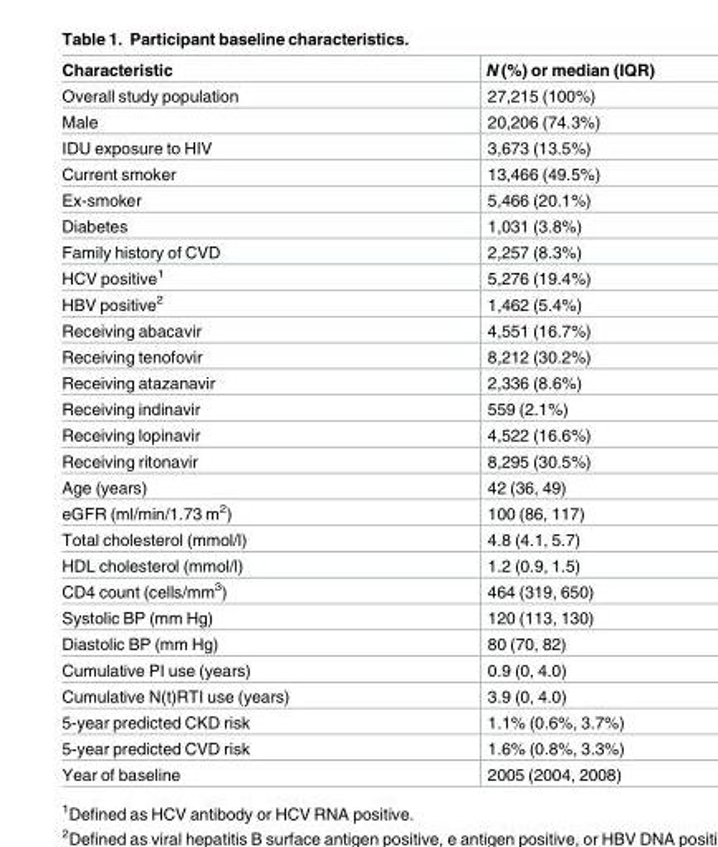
<table><thead><tr><td>Characteristic</td><td>N (%) or median (IQR)</td></tr></thead><tbody><tr><td>Overall study population</td><td>27,215 (100%)</td></tr><tr><td>Male</td><td>20,206 (74.3%)</td></tr><tr><td>IDU exposure to HIV</td><td>3,673 (13.5%)</td></tr><tr><td>Current smoker</td><td>13,466 (49.5%)</td></tr><tr><td>Ex-smoker</td><td>5,466 (20.1%)</td></tr><tr><td>Diabetes</td><td>1,031 (3.8%)</td></tr><tr><td>Family history of CVD</td><td>2,257 (8.3%)</td></tr><tr><td>HCV positive<sup>1</sup></td><td>5,276 (19.4%)</td></tr><tr><td>HBV positive<sup>2</sup></td><td>1,462 (5.4%)</td></tr><tr><td>Receiving abacavir</td><td>4,551 (16.7%)</td></tr><tr><td>Receiving tenofovir</td><td>8,212 (30.2%)</td></tr><tr><td>Receiving atazanavir</td><td>2,336 (8.6%)</td></tr><tr><td>Receiving indinavir</td><td>559 (2.1%)</td></tr><tr><td>Receiving lopinavir</td><td>4,522 (16.6%)</td></tr><tr><td>Receiving ritonavir</td><td>8,295 (30.5%)</td></tr><tr><td>Age (years)</td><td>42 (36, 49)</td></tr><tr><td>eGFR (ml/min/1.73 m<sup>2</sup>)</td><td>100 (86, 117)</td></tr><tr><td>Total cholesterol (mmol/l)</td><td>4.8 (4.1, 5.7)</td></tr><tr><td>HDL cholesterol (mmol/l)</td><td>1.2 (0.9, 1.5)</td></tr><tr><td>CD4 count (cells/mm<sup>3</sup>)</td><td>464 (319, 650)</td></tr><tr><td>Systolic BP (mm Hg)</td><td>120 (113, 130)</td></tr><tr><td>Diastolic BP (mm Hg)</td><td>80 (70, 82)</td></tr><tr><td>Cumulative PI use (years)</td><td>0.9 (0, 4.0)</td></tr><tr><td>Cumulative N(t)RTI use (years)</td><td>3.9 (0, 4.0)</td></tr><tr><td>5-year predicted CKD risk</td><td>1.1% (0.6%, 3.7%)</td></tr><tr><td>5-year predicted CVD risk</td><td>1.6% (0.8%, 3.3%)</td></tr><tr><td>Year of baseline</td><td>2005 (2004, 2008)</td></tr></tbody></table>